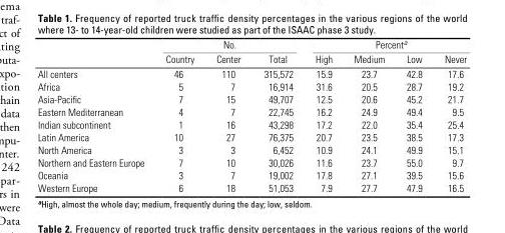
<table><thead><tr><td rowspan="2"></td><td colspan="3">No.</td><td colspan="4">Percent<sup>a</sup></td></tr><tr><td>Country</td><td>Center</td><td>Total</td><td>High</td><td>Medium</td><td>Low</td><td>Never</td></tr></thead><tbody><tr><td>All centers</td><td>46</td><td>110</td><td>315,572</td><td>15.9</td><td>23.7</td><td>42.8</td><td>17.6</td></tr><tr><td>Africa</td><td>5</td><td>7</td><td>16,914</td><td>31.6</td><td>20.5</td><td>28.7</td><td>19.2</td></tr><tr><td>Asia-Pacific</td><td>7</td><td>15</td><td>49,707</td><td>12.5</td><td>20.6</td><td>45.2</td><td>21.7</td></tr><tr><td>Eastern Mediterranean</td><td>4</td><td>7</td><td>22,745</td><td>16.2</td><td>24.9</td><td>49.4</td><td>9.5</td></tr><tr><td>Indian subcontinent</td><td>1</td><td>16</td><td>43,298</td><td>17.2</td><td>22.0</td><td>35.4</td><td>25.4</td></tr><tr><td>Latin America</td><td>10</td><td>27</td><td>76,375</td><td>20.7</td><td>23.5</td><td>38.5</td><td>17.3</td></tr><tr><td>North America</td><td>3</td><td>3</td><td>6,452</td><td>10.9</td><td>24.1</td><td>49.9</td><td>15.1</td></tr><tr><td>Northern and Eastern Europe</td><td>7</td><td>10</td><td>30,026</td><td>11.6</td><td>23.7</td><td>55.0</td><td>9.7</td></tr><tr><td>Oceania</td><td>3</td><td>7</td><td>19,002</td><td>17.8</td><td>27.1</td><td>39.5</td><td>15.6</td></tr><tr><td>Western Europe</td><td>6</td><td>18</td><td>51,053</td><td>7.9</td><td>27.7</td><td>47.9</td><td>16.5</td></tr></tbody></table>